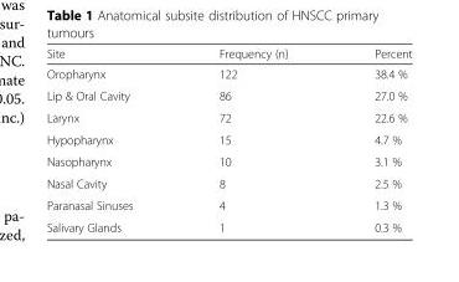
<table><thead><tr><td>Site</td><td>Frequency (n)</td><td>Percent</td></tr></thead><tbody><tr><td>Oropharynx</td><td>122</td><td>38.4 %</td></tr><tr><td>Lip &amp; Oral Cavity</td><td>86</td><td>27.0 %</td></tr><tr><td>Larynx</td><td>72</td><td>22.6 %</td></tr><tr><td>Hypopharynx</td><td>15</td><td>4.7 %</td></tr><tr><td>Nasopharynx</td><td>10</td><td>3.1 %</td></tr><tr><td>Nasal Cavity</td><td>8</td><td>2.5 %</td></tr><tr><td>Paranasal Sinuses</td><td>4</td><td>1.3 %</td></tr><tr><td>Salivary Glands</td><td>1</td><td>0.3 %</td></tr></tbody></table>